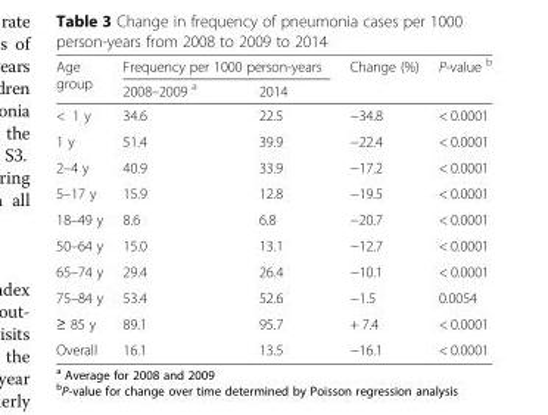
<table><thead><tr><td rowspan="2">Age group</td><td colspan="2">Frequency per 1000 person-years</td><td rowspan="2">Change (%)</td><td rowspan="2">P-value <sup>b</sup></td></tr><tr><td>2008–2009 <sup>a</sup></td><td>2014</td></tr></thead><tbody><tr><td>&lt; 1 y</td><td>34.6</td><td>22.5</td><td>−34.8</td><td>&lt; 0.0001</td></tr><tr><td>1 y</td><td>51.4</td><td>39.9</td><td>−22.4</td><td>&lt; 0.0001</td></tr><tr><td>2–4 y</td><td>40.9</td><td>33.9</td><td>−17.2</td><td>&lt; 0.0001</td></tr><tr><td>5–17 y</td><td>15.9</td><td>12.8</td><td>−19.5</td><td>&lt; 0.0001</td></tr><tr><td>18–49 y</td><td>8.6</td><td>6.8</td><td>−20.7</td><td>&lt; 0.0001</td></tr><tr><td>50–64 y</td><td>15.0</td><td>13.1</td><td>−12.7</td><td>&lt; 0.0001</td></tr><tr><td>65–74 y</td><td>29.4</td><td>26.4</td><td>−10.1</td><td>&lt; 0.0001</td></tr><tr><td>75–84 y</td><td>53.4</td><td>52.6</td><td>−1.5</td><td>0.0054</td></tr><tr><td>≥ 85 y</td><td>89.1</td><td>95.7</td><td>+ 7.4</td><td>&lt; 0.0001</td></tr><tr><td>Overall</td><td>16.1</td><td>13.5</td><td>−16.1</td><td>&lt; 0.0001</td></tr></tbody></table>